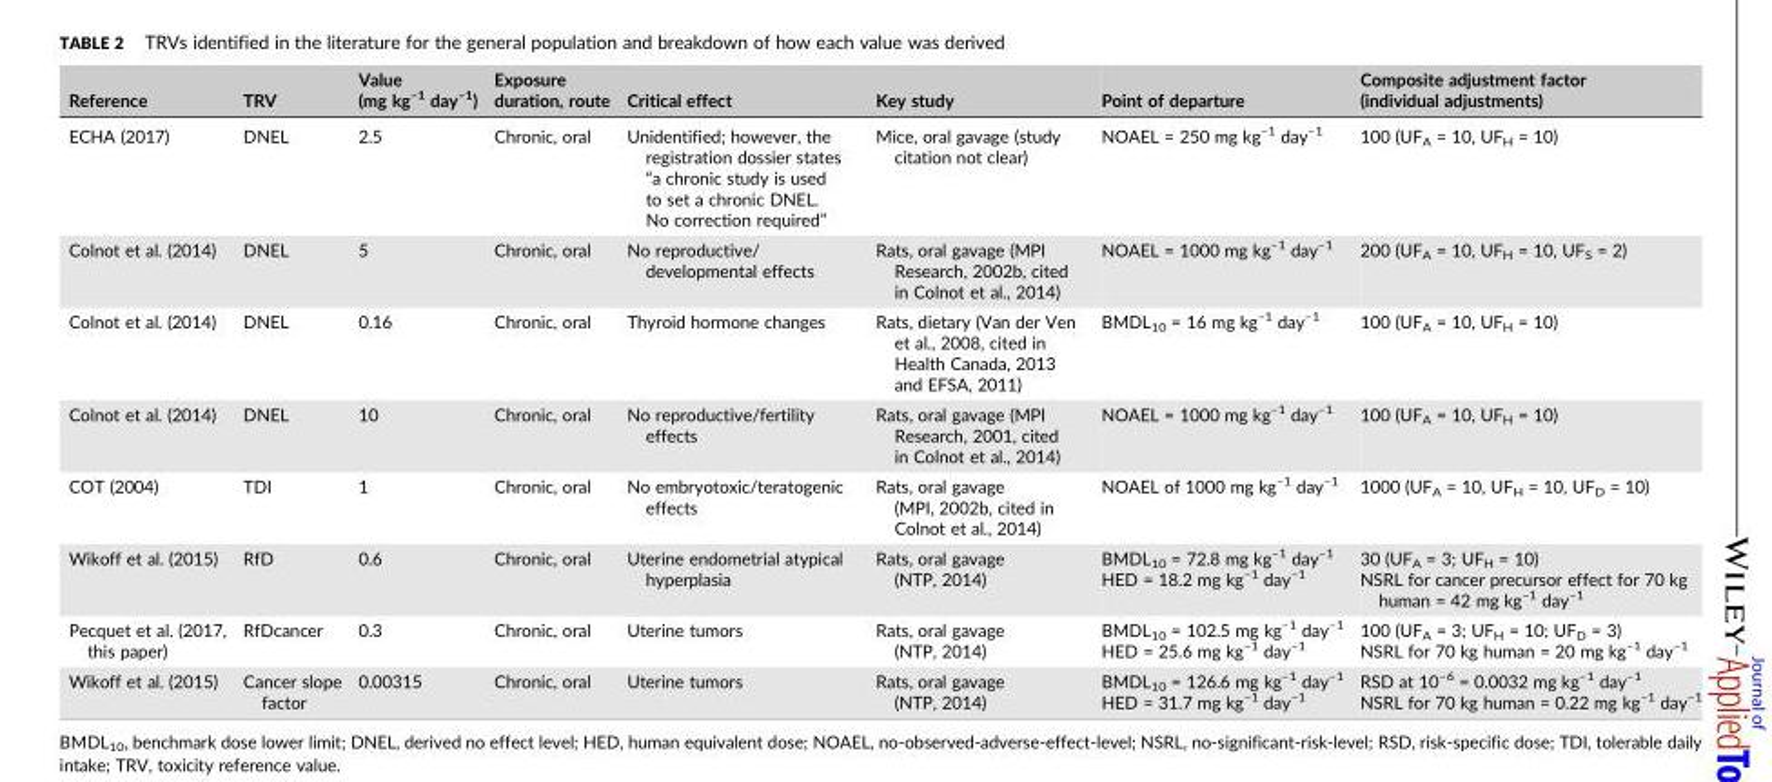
<table><thead><tr><td>Reference</td><td>TRV</td><td>Value (mg kg<sup>–1</sup> day<sup>–1</sup>)</td><td>Exposure duration, route</td><td>Critical effect</td><td>Key study</td><td>Point of departure</td><td>Composite adjustment factor (individual adjustments)</td></tr></thead><tbody><tr><td>ECHA (2017)</td><td>DNEL</td><td>2.5</td><td>Chronic, oral</td><td>Unidentified; however, the registration dossier states “a chronic study is used to set a chronic DNEL. No correction required”</td><td>Mice, oral gavage (study citation not clear)</td><td>NOAEL = 250 mg kg<sup>–1</sup> day<sup>–1</sup></td><td>100 (UF<sub>A</sub> = 10, UF<sub>H</sub> = 10)</td></tr><tr><td>Colnot et al. (2014)</td><td>DNEL</td><td>5</td><td>Chronic, oral</td><td>No reproductive/ developmental effects</td><td>Rats, oral gavage (MPI Research, 2002b, cited in Colnot et al., 2014)</td><td>NOAEL = 1000 mg kg<sup>–1</sup> day<sup>–1</sup></td><td>200 (UF<sub>A</sub> = 10, UF<sub>H</sub> = 10, UF<sub>S</sub> = 2)</td></tr><tr><td>Colnot et al. (2014)</td><td>DNEL</td><td>0.16</td><td>Chronic, oral</td><td>Thyroid hormone changes</td><td>Rats, dietary (Van der Ven et al., 2008, cited in Health Canada, 2013 and EFSA, 2011)</td><td>BMDL<sub>10</sub> = 16 mg kg<sup>–1</sup> day<sup>–1</sup></td><td>100 (UF<sub>A</sub> = 10, UF<sub>H</sub> = 10)</td></tr><tr><td>Colnot et al. (2014)</td><td>DNEL</td><td>10</td><td>Chronic, oral</td><td>No reproductive/fertility effects</td><td>Rats, oral gavage (MPI Research, 2001, cited in Colnot et al., 2014)</td><td>NOAEL = 1000 mg kg<sup>–1</sup> day<sup>–1</sup></td><td>100 (UF<sub>A</sub> = 10, UF<sub>H</sub> = 10)</td></tr><tr><td>COT (2004)</td><td>TDI</td><td>1</td><td>Chronic, oral</td><td>No embryotoxic/teratogenic effects</td><td>Rats, oral gavage (MPI, 2002b, cited in Colnot et al., 2014)</td><td>NOAEL of 1000 mg kg<sup>–1</sup> day<sup>–1</sup></td><td>1000 (UF<sub>A</sub> = 10, UF<sub>H</sub> = 10, UF<sub>D</sub> = 10)</td></tr><tr><td>Wikoff et al. (2015)</td><td>RfD</td><td>0.6</td><td>Chronic, oral</td><td>Uterine endometrial atypical hyperplasia</td><td>Rats, oral gavage (NTP, 2014)</td><td>BMDL<sub>10</sub> = 72.8 mg kg<sup>–1</sup> day<sup>–1</sup> HED = 18.2 mg kg<sup>–1</sup> day<sup>–1</sup></td><td>30 (UF<sub>A</sub> = 3; UF<sub>H</sub> = 10) NSRL for cancer precursor effect for 70 kg human = 42 mg kg<sup>–1</sup> day<sup>–1</sup></td></tr><tr><td>Pecquet et al. (2017, this paper)</td><td>RfDcancer</td><td>0.3</td><td>Chronic, oral</td><td>Uterine tumors</td><td>Rats, oral gavage (NTP, 2014)</td><td>BMDL<sub>10</sub> = 102.5 mg kg<sup>–1</sup> day<sup>–1</sup> HED = 25.6 mg kg<sup>–1</sup> day<sup>–1</sup></td><td>100 (UF<sub>A</sub> = 3; UF<sub>H</sub> = 10; UF<sub>D</sub> = 3) NSRL for 70 kg human = 20 mg kg<sup>–1</sup> day<sup>–1</sup></td></tr><tr><td>Wikoff et al. (2015)</td><td>Cancer slope factor</td><td>0.00315</td><td>Chronic, oral</td><td>Uterine tumors</td><td>Rats, oral gavage (NTP, 2014)</td><td>BMDL<sub>10</sub> = 126.6 mg kg<sup>–1</sup> day<sup>–1</sup> HED = 31.7 mg kg<sup>–1</sup> day<sup>–1</sup></td><td>RSD at 10<sup>–6</sup> = 0.0032 mg kg<sup>–1</sup> day<sup>–1</sup> NSRL for 70 kg human = 0.22 mg kg<sup>–1</sup> day<sup>–1</sup></td></tr></tbody></table>